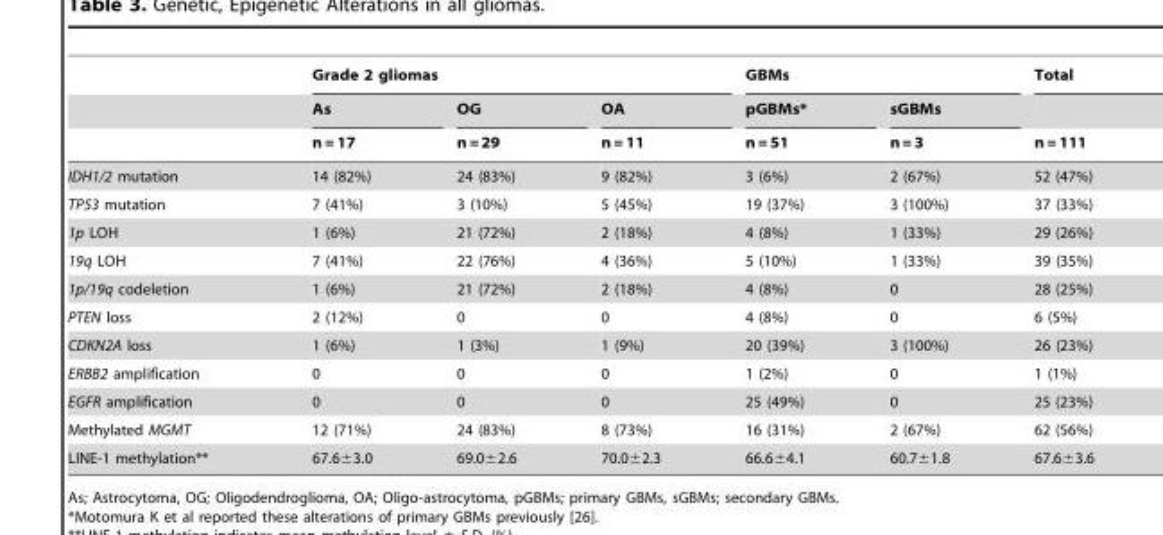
<table><thead><tr><td rowspan="3"></td><td colspan="3">Grade 2 gliomas</td><td colspan="2">GBMs</td><td rowspan="3">Total n = 111</td></tr><tr><td rowspan="2">As n = 17</td><td rowspan="2">OG n = 29</td><td rowspan="2">OA n = 11</td><td rowspan="2">pGBMs* n = 51</td><td rowspan="2">sGBMs n = 3</td></tr><tr></tr></thead><tbody><tr><td>IDH1/2 mutation</td><td>14 (82%)</td><td>24 (83%)</td><td>9 (82%)</td><td>3 (6%)</td><td>2 (67%)</td><td>52 (47%)</td></tr><tr><td>TP53 mutation</td><td>7 (41%)</td><td>3 (10%)</td><td>5 (45%)</td><td>19 (37%)</td><td>3 (100%)</td><td>37 (33%)</td></tr><tr><td>1p LOH</td><td>1 (6%)</td><td>21 (72%)</td><td>2 (18%)</td><td>4 (8%)</td><td>1 (33%)</td><td>29 (26%)</td></tr><tr><td>19q LOH</td><td>7 (41%)</td><td>22 (76%)</td><td>4 (36%)</td><td>5 (10%)</td><td>1 (33%)</td><td>39 (35%)</td></tr><tr><td>1p/19q codeletion</td><td>1 (6%)</td><td>21 (72%)</td><td>2 (18%)</td><td>4 (8%)</td><td>0</td><td>28 (25%)</td></tr><tr><td>PTEN loss</td><td>2 (12%)</td><td>0</td><td>0</td><td>4 (8%)</td><td>0</td><td>6 (5%)</td></tr><tr><td>CDKN2A loss</td><td>1 (6%)</td><td>1 (3%)</td><td>1 (9%)</td><td>20 (39%)</td><td>3 (100%)</td><td>26 (23%)</td></tr><tr><td>ERBB2 amplification</td><td>0</td><td>0</td><td>0</td><td>1 (2%)</td><td>0</td><td>1 (1%)</td></tr><tr><td>EGFR amplification</td><td>0</td><td>0</td><td>0</td><td>25 (49%)</td><td>0</td><td>25 (23%)</td></tr><tr><td>Methylated MGMT</td><td>12 (71%)</td><td>24 (83%)</td><td>8 (73%)</td><td>16 (31%)</td><td>2 (67%)</td><td>62 (56%)</td></tr><tr><td>LINE-1 methylation**</td><td>67.6±3.0</td><td>69.0±2.6</td><td>70.0±2.3</td><td>66.6±4.1</td><td>60.7±1.8</td><td>67.6±3.6</td></tr></tbody></table>